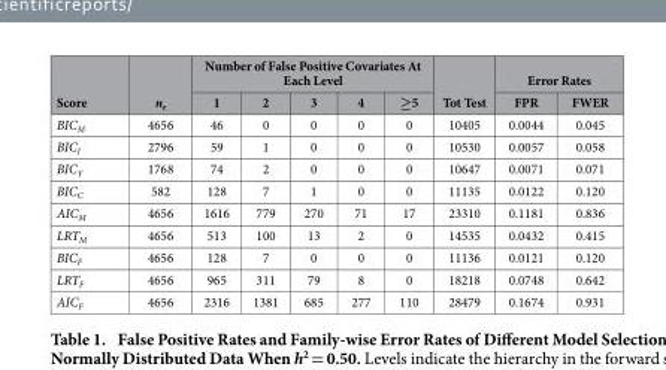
<table><thead><tr><td rowspan="2">Score</td><td rowspan="2">n<sub>e</sub></td><td colspan="5">Number of False Positive Covariates At Each Level</td><td rowspan="2">Tot Test</td><td colspan="2">Error Rates</td></tr><tr><td>1</td><td>2</td><td>3</td><td>4</td><td>≥5</td><td>FPR</td><td>FWER</td></tr></thead><tbody><tr><td>BIC<sub>M</sub></td><td>4656</td><td>46</td><td>0</td><td>0</td><td>0</td><td>0</td><td>10405</td><td>0.0044</td><td>0.045</td></tr><tr><td>BIC<sub>J</sub></td><td>2796</td><td>59</td><td>1</td><td>0</td><td>0</td><td>0</td><td>10530</td><td>0.0057</td><td>0.058</td></tr><tr><td>BIC<sub>Y</sub></td><td>1768</td><td>74</td><td>2</td><td>0</td><td>0</td><td>0</td><td>10647</td><td>0.0071</td><td>0.071</td></tr><tr><td>BIC<sub>C</sub></td><td>582</td><td>128</td><td>7</td><td>1</td><td>0</td><td>0</td><td>11135</td><td>0.0122</td><td>0.120</td></tr><tr><td>AIC<sub>M</sub></td><td>4656</td><td>1616</td><td>779</td><td>270</td><td>71</td><td>17</td><td>23310</td><td>0.1181</td><td>0.836</td></tr><tr><td>LRT<sub>M</sub></td><td>4656</td><td>513</td><td>100</td><td>13</td><td>2</td><td>0</td><td>14535</td><td>0.0432</td><td>0.415</td></tr><tr><td>BIC<sub>F</sub></td><td>4656</td><td>128</td><td>7</td><td>0</td><td>0</td><td>0</td><td>11136</td><td>0.0121</td><td>0.120</td></tr><tr><td>LRT<sub>F</sub></td><td>4656</td><td>965</td><td>311</td><td>79</td><td>8</td><td>0</td><td>18218</td><td>0.0748</td><td>0.642</td></tr><tr><td>AIC<sub>F</sub></td><td>4656</td><td>2316</td><td>1381</td><td>685</td><td>277</td><td>110</td><td>28479</td><td>0.1674</td><td>0.931</td></tr></tbody></table>